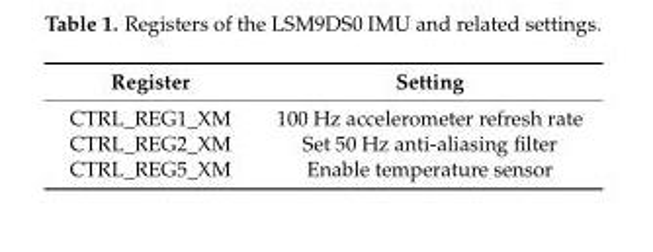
<table><thead><tr><td>Register</td><td>Setting</td></tr></thead><tbody><tr><td>CTRL_REG1_XM</td><td>100 Hz accelerometer refresh rate</td></tr><tr><td>CTRL_REG2_XM</td><td>Set 50 Hz anti-aliasing filter</td></tr><tr><td>CTRL_REG5_XM</td><td>Enable temperature sensor</td></tr></tbody></table>